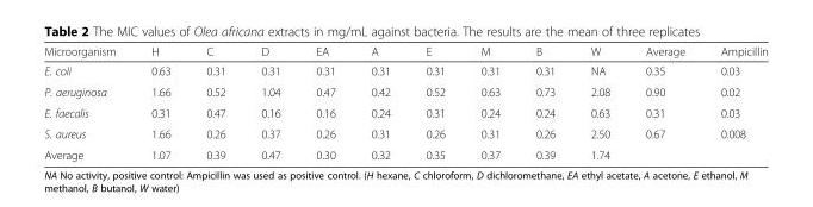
<table><thead><tr><td>Microorganism</td><td>H</td><td>C</td><td>D</td><td>EA</td><td>A</td><td>E</td><td>M</td><td>B</td><td>W</td><td>Average</td><td>Ampicillin</td></tr></thead><tbody><tr><td>E. coli</td><td>0.63</td><td>0.31</td><td>0.31</td><td>0.31</td><td>0.31</td><td>0.31</td><td>0.31</td><td>0.31</td><td>NA</td><td>0.35</td><td>0.03</td></tr><tr><td>P. aeruginosa</td><td>1.66</td><td>0.52</td><td>1.04</td><td>0.47</td><td>0.42</td><td>0.52</td><td>0.63</td><td>0.73</td><td>2.08</td><td>0.90</td><td>0.02</td></tr><tr><td>E. faecalis</td><td>0.31</td><td>0.47</td><td>0.16</td><td>0.16</td><td>0.24</td><td>0.31</td><td>0.24</td><td>0.24</td><td>0.63</td><td>0.31</td><td>0.03</td></tr><tr><td>S. aureus</td><td>1.66</td><td>0.26</td><td>0.37</td><td>0.26</td><td>0.31</td><td>0.26</td><td>0.31</td><td>0.26</td><td>2.50</td><td>0.67</td><td>0.008</td></tr><tr><td>Average</td><td>1.07</td><td>0.39</td><td>0.47</td><td>0.30</td><td>0.32</td><td>0.35</td><td>0.37</td><td>0.39</td><td>1.74</td><td></td><td></td></tr></tbody></table>